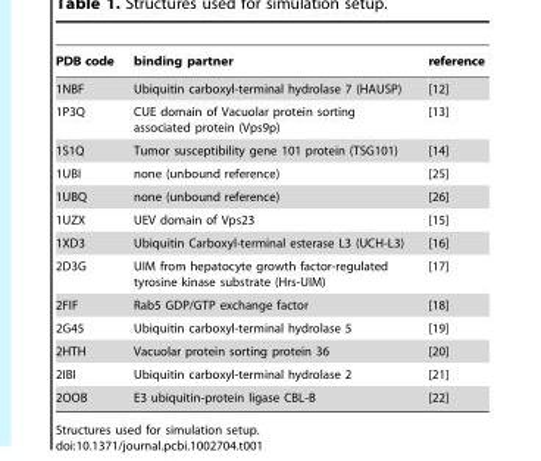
<table><thead><tr><td>PDB code</td><td>binding partner</td><td>reference</td></tr></thead><tbody><tr><td>1NBF</td><td>Ubiquitin carboxyl-terminal hydrolase 7 (HAUSP)</td><td>[12]</td></tr><tr><td>1P3Q</td><td>CUE domain of Vacuolar protein sorting associated protein (Vps9p)</td><td>[13]</td></tr><tr><td>1S1Q</td><td>Tumor susceptibility gene 101 protein (TSG101)</td><td>[14]</td></tr><tr><td>1UBI</td><td>none (unbound reference)</td><td>[25]</td></tr><tr><td>1UBQ</td><td>none (unbound reference)</td><td>[26]</td></tr><tr><td>1UZX</td><td>UEV domain of Vps23</td><td>[15]</td></tr><tr><td>1XD3</td><td>Ubiquitin Carboxyl-terminal esterase L3 (UCH-L3)</td><td>[16]</td></tr><tr><td>2D3G</td><td>UIM from hepatocyte growth factor-regulated tyrosine kinase substrate (Hrs-UIM)</td><td>[17]</td></tr><tr><td>2FIF</td><td>Rab5 GDP/GTP exchange factor</td><td>[18]</td></tr><tr><td>2G45</td><td>Ubiquitin carboxyl-terminal hydrolase 5</td><td>[19]</td></tr><tr><td>2HTH</td><td>Vacuolar protein sorting protein 36</td><td>[20]</td></tr><tr><td>2IBI</td><td>Ubiquitin carboxyl-terminal hydrolase 2</td><td>[21]</td></tr><tr><td>2OOB</td><td>E3 ubiquitin-protein ligase CBL-B</td><td>[22]</td></tr></tbody></table>